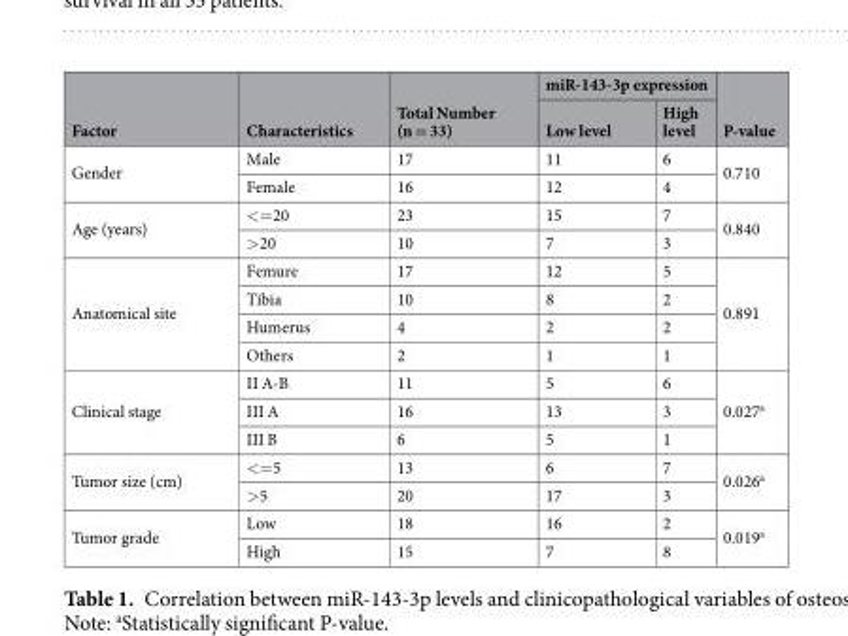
<table><thead><tr><td rowspan="2">Factor</td><td rowspan="2">Characteristics</td><td rowspan="2">Total Number (n = 33)</td><td colspan="2">miR-143-3p expression</td><td rowspan="2">P-value</td></tr><tr><td>Low level</td><td>High level</td></tr></thead><tbody><tr><td rowspan="2">Gender</td><td>Male</td><td>17</td><td>11</td><td>6</td><td rowspan="2">0.710</td></tr><tr><td>Female</td><td>16</td><td>12</td><td>4</td></tr><tr><td rowspan="2">Age (years)</td><td>&lt;=20</td><td>23</td><td>15</td><td>7</td><td rowspan="2">0.840</td></tr><tr><td>&gt;20</td><td>10</td><td>7</td><td>3</td></tr><tr><td rowspan="4">Anatomical site</td><td>Femure</td><td>17</td><td>12</td><td>5</td><td rowspan="4">0.891</td></tr><tr><td>Tibia</td><td>10</td><td>8</td><td>2</td></tr><tr><td>Humerus</td><td>4</td><td>2</td><td>2</td></tr><tr><td>Others</td><td>2</td><td>1</td><td>1</td></tr><tr><td rowspan="3">Clinical stage</td><td>II A-B</td><td>11</td><td>5</td><td>6</td><td rowspan="3">0.027<sup>a</sup></td></tr><tr><td>III A</td><td>16</td><td>13</td><td>3</td></tr><tr><td>III B</td><td>6</td><td>5</td><td>1</td></tr><tr><td rowspan="2">Tumor size (cm)</td><td>&lt;=5</td><td>13</td><td>6</td><td>7</td><td rowspan="2">0.026<sup>a</sup></td></tr><tr><td>&gt;5</td><td>20</td><td>17</td><td>3</td></tr><tr><td rowspan="2">Tumor grade</td><td>Low</td><td>18</td><td>16</td><td>2</td><td rowspan="2">0.019<sup>a</sup></td></tr><tr><td>High</td><td>15</td><td>7</td><td>8</td></tr></tbody></table>